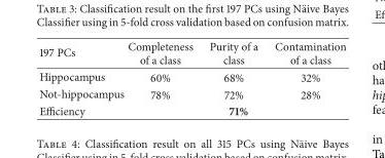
<table><thead><tr><td>197 PCs</td><td>Completeness of a class</td><td>Purity of a class</td><td>Contamination of a class</td></tr></thead><tbody><tr><td>Hippocampus</td><td>60%</td><td>68%</td><td>32%</td></tr><tr><td>Not-hippocampus</td><td>78%</td><td>72%</td><td>28%</td></tr><tr><td>Efficiency</td><td colspan="3">71%</td></tr></tbody></table>